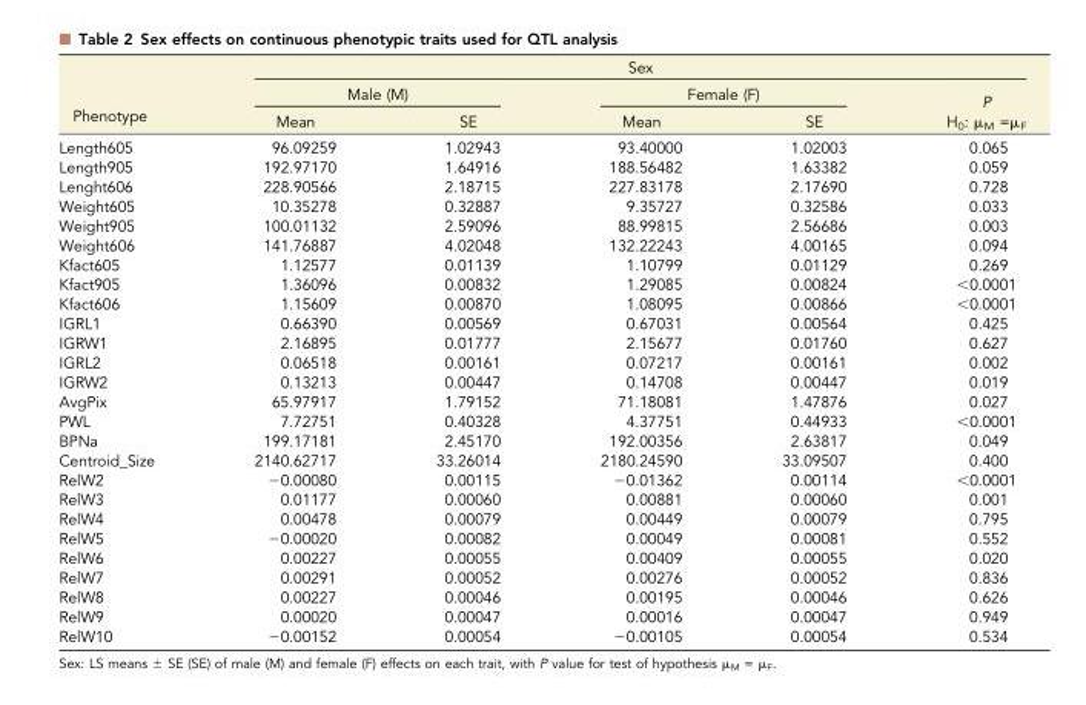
<table><thead><tr><td rowspan="3">Phenotype</td><td colspan="5">Sex</td></tr><tr><td colspan="2">Male (M)</td><td colspan="2">Female (F)</td><td rowspan="2">P H<sub>0</sub>: μ<sub>M</sub> =μ<sub>F</sub></td></tr><tr><td>Mean</td><td>SE</td><td>Mean</td><td>SE</td></tr></thead><tbody><tr><td>Length605</td><td>96.09259</td><td>1.02943</td><td>93.40000</td><td>1.02003</td><td>0.065</td></tr><tr><td>Length905</td><td>192.97170</td><td>1.64916</td><td>188.56482</td><td>1.63382</td><td>0.059</td></tr><tr><td>Lenght606</td><td>228.90566</td><td>2.18715</td><td>227.83178</td><td>2.17690</td><td>0.728</td></tr><tr><td>Weight605</td><td>10.35278</td><td>0.32887</td><td>9.35727</td><td>0.32586</td><td>0.033</td></tr><tr><td>Weight905</td><td>100.01132</td><td>2.59096</td><td>88.99815</td><td>2.56686</td><td>0.003</td></tr><tr><td>Weight606</td><td>141.76887</td><td>4.02048</td><td>132.22243</td><td>4.00165</td><td>0.094</td></tr><tr><td>Kfact605</td><td>1.12577</td><td>0.01139</td><td>1.10799</td><td>0.01129</td><td>0.269</td></tr><tr><td>Kfact905</td><td>1.36096</td><td>0.00832</td><td>1.29085</td><td>0.00824</td><td>&lt;0.0001</td></tr><tr><td>Kfact606</td><td>1.15609</td><td>0.00870</td><td>1.08095</td><td>0.00866</td><td>&lt;0.0001</td></tr><tr><td>IGRL1</td><td>0.66390</td><td>0.00569</td><td>0.67031</td><td>0.00564</td><td>0.425</td></tr><tr><td>IGRW1</td><td>2.16895</td><td>0.01777</td><td>2.15677</td><td>0.01760</td><td>0.627</td></tr><tr><td>IGRL2</td><td>0.06518</td><td>0.00161</td><td>0.07217</td><td>0.00161</td><td>0.002</td></tr><tr><td>IGRW2</td><td>0.13213</td><td>0.00447</td><td>0.14708</td><td>0.00447</td><td>0.019</td></tr><tr><td>AvgPix</td><td>65.97917</td><td>1.79152</td><td>71.18081</td><td>1.47876</td><td>0.027</td></tr><tr><td>PWL</td><td>7.72751</td><td>0.40328</td><td>4.37751</td><td>0.44933</td><td>&lt;0.0001</td></tr><tr><td>BPNa</td><td>199.17181</td><td>2.45170</td><td>192.00356</td><td>2.63817</td><td>0.049</td></tr><tr><td>Centroid_Size</td><td>2140.62717</td><td>33.26014</td><td>2180.24590</td><td>33.09507</td><td>0.400</td></tr><tr><td>RelW2</td><td>−0.00080</td><td>0.00115</td><td>−0.01362</td><td>0.00114</td><td>&lt;0.0001</td></tr><tr><td>RelW3</td><td>0.01177</td><td>0.00060</td><td>0.00881</td><td>0.00060</td><td>0.001</td></tr><tr><td>RelW4</td><td>0.00478</td><td>0.00079</td><td>0.00449</td><td>0.00079</td><td>0.795</td></tr><tr><td>RelW5</td><td>−0.00020</td><td>0.00082</td><td>0.00049</td><td>0.00081</td><td>0.552</td></tr><tr><td>RelW6</td><td>0.00227</td><td>0.00055</td><td>0.00409</td><td>0.00055</td><td>0.020</td></tr><tr><td>RelW7</td><td>0.00291</td><td>0.00052</td><td>0.00276</td><td>0.00052</td><td>0.836</td></tr><tr><td>RelW8</td><td>0.00227</td><td>0.00046</td><td>0.00195</td><td>0.00046</td><td>0.626</td></tr><tr><td>RelW9</td><td>0.00020</td><td>0.00047</td><td>0.00016</td><td>0.00047</td><td>0.949</td></tr><tr><td>RelW10</td><td>−0.00152</td><td>0.00054</td><td>−0.00105</td><td>0.00054</td><td>0.534</td></tr></tbody></table>